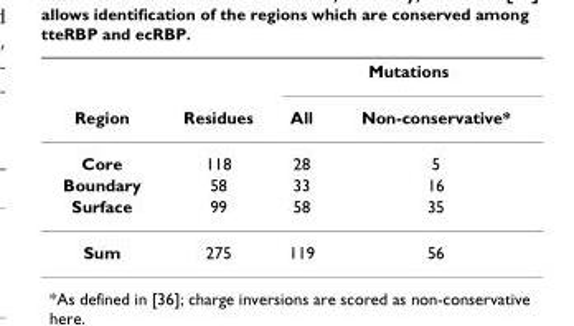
<table><thead><tr><td rowspan="2">Region</td><td rowspan="2">Residues</td><td colspan="2">Mutations</td></tr><tr><td>All</td><td>Non-conservative*</td></tr></thead><tbody><tr><td>Core</td><td>118</td><td>28</td><td>5</td></tr><tr><td>Boundary</td><td>58</td><td>33</td><td>16</td></tr><tr><td>Surface</td><td>99</td><td>58</td><td>35</td></tr><tr><td>Sum</td><td>275</td><td>119</td><td>56</td></tr></tbody></table>